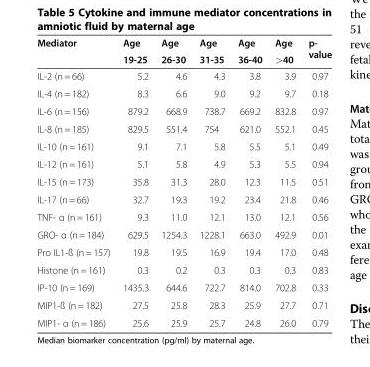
<table><thead><tr><td rowspan="2">Mediator</td><td rowspan="2">Age 19-25</td><td rowspan="2">Age 26-30</td><td rowspan="2">Age 31-35</td><td rowspan="2">Age 36-40</td><td rowspan="2">Age &gt;40</td><td rowspan="2">p- value</td></tr><tr></tr></thead><tbody><tr><td>IL-2 (n = 66)</td><td>5.2</td><td>4.6</td><td>4.3</td><td>3.8</td><td>3.9</td><td>0.97</td></tr><tr><td>IL-4 (n = 182)</td><td>8.3</td><td>6.6</td><td>9.0</td><td>9.2</td><td>9.7</td><td>0.18</td></tr><tr><td>IL-6 (n = 156)</td><td>879.2</td><td>668.9</td><td>738.7</td><td>669.2</td><td>832.8</td><td>0.97</td></tr><tr><td>IL-8 (n = 185)</td><td>829.5</td><td>551.4</td><td>754</td><td>621.0</td><td>552.1</td><td>0.45</td></tr><tr><td>IL-10 (n = 161)</td><td>9.1</td><td>7.1</td><td>5.8</td><td>5.5</td><td>5.1</td><td>0.49</td></tr><tr><td>IL-12 (n = 161)</td><td>5.1</td><td>5.8</td><td>4.9</td><td>5.3</td><td>5.5</td><td>0.94</td></tr><tr><td>IL-15 (n = 173)</td><td>35.8</td><td>31.3</td><td>28.0</td><td>12.3</td><td>11.5</td><td>0.51</td></tr><tr><td>IL-17 (n = 66)</td><td>32.7</td><td>19.3</td><td>19.2</td><td>23.4</td><td>21.8</td><td>0.46</td></tr><tr><td>TNF- α (n = 161)</td><td>9.3</td><td>11.0</td><td>12.1</td><td>13.0</td><td>12.1</td><td>0.56</td></tr><tr><td>GRO- α (n = 184)</td><td>629.5</td><td>1254.3</td><td>1228.1</td><td>663.0</td><td>492.9</td><td>0.01</td></tr><tr><td>Pro IL1-ß (n = 157)</td><td>19.8</td><td>19.5</td><td>16.9</td><td>19.4</td><td>17.0</td><td>0.48</td></tr><tr><td>Histone (n = 161)</td><td>0.3</td><td>0.2</td><td>0.3</td><td>0.3</td><td>0.3</td><td>0.83</td></tr><tr><td>IP-10 (n = 169)</td><td>1435.3</td><td>644.6</td><td>722.7</td><td>814.0</td><td>702.8</td><td>0.33</td></tr><tr><td>MIP1-ß (n = 182)</td><td>27.5</td><td>25.8</td><td>28.3</td><td>25.9</td><td>27.7</td><td>0.71</td></tr><tr><td>MIP1- α (n = 186)</td><td>25.6</td><td>25.9</td><td>25.7</td><td>24.8</td><td>26.0</td><td>0.79</td></tr></tbody></table>